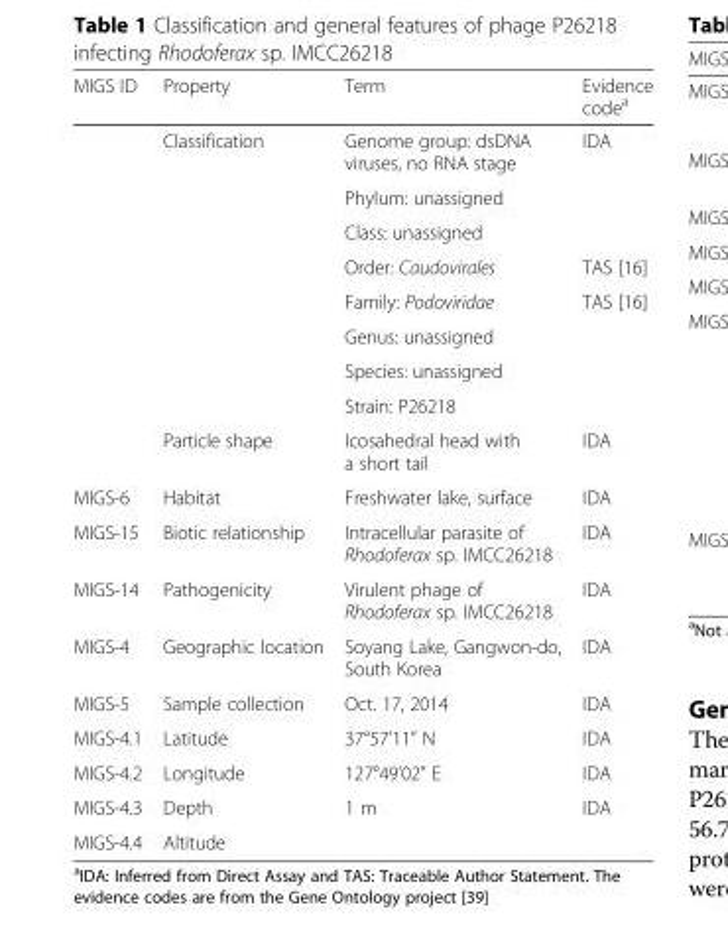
<table><thead><tr><td>MIGS ID</td><td>Property</td><td>Term</td><td>Evidence code<sup>a</sup></td></tr></thead><tbody><tr><td></td><td>Classification</td><td>Genome group: dsDNA viruses, no RNA stage</td><td>IDA</td></tr><tr><td></td><td></td><td>Phylum: unassigned</td><td></td></tr><tr><td></td><td></td><td>Class: unassigned</td><td></td></tr><tr><td></td><td></td><td>Order: Caudovirales</td><td>TAS [16]</td></tr><tr><td></td><td></td><td>Family: Podoviridae</td><td>TAS [16]</td></tr><tr><td></td><td></td><td>Genus: unassigned</td><td></td></tr><tr><td></td><td></td><td>Species: unassigned</td><td></td></tr><tr><td></td><td></td><td>Strain: P26218</td><td></td></tr><tr><td></td><td>Particle shape</td><td>Icosahedral head with a short tail</td><td>IDA</td></tr><tr><td>MIGS-6</td><td>Habitat</td><td>Freshwater lake, surface</td><td>IDA</td></tr><tr><td>MIGS-15</td><td>Biotic relationship</td><td>Intracellular parasite of Rhodoferax sp. IMCC26218</td><td>IDA</td></tr><tr><td>MIGS-14</td><td>Pathogenicity</td><td>Virulent phage of Rhodoferax sp. IMCC26218</td><td>IDA</td></tr><tr><td>MIGS-4</td><td>Geographic location</td><td>Soyang Lake, Gangwon-do, South Korea</td><td>IDA</td></tr><tr><td>MIGS-5</td><td>Sample collection</td><td>Oct. 17, 2014</td><td>IDA</td></tr><tr><td>MIGS-4.1</td><td>Latitude</td><td>37°57’11” N</td><td>IDA</td></tr><tr><td>MIGS-4.2</td><td>Longitude</td><td>127°49’02” E</td><td>IDA</td></tr><tr><td>MIGS-4.3</td><td>Depth</td><td>1 m</td><td>IDA</td></tr><tr><td>MIGS-4.4</td><td>Altitude</td><td></td><td></td></tr></tbody></table>